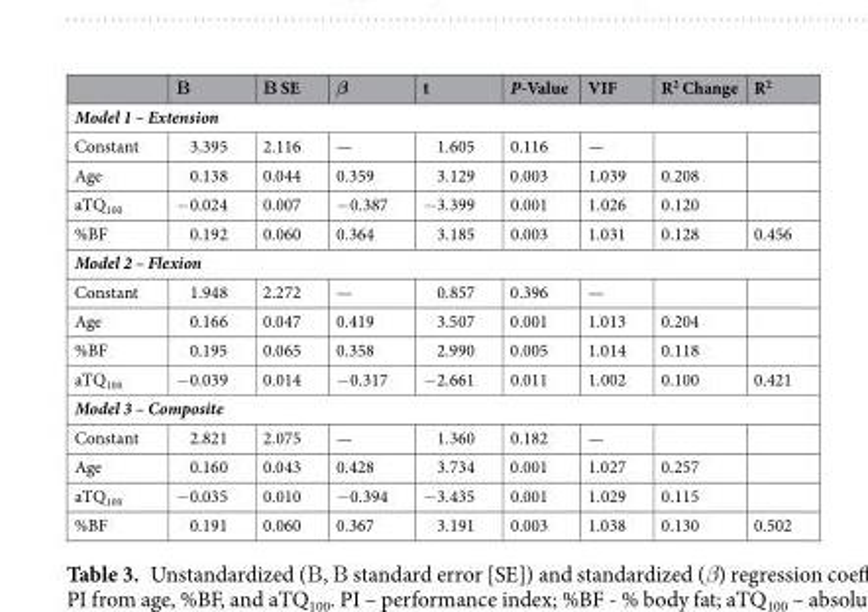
<table><thead><tr><td></td><td>Β</td><td>Β SE</td><td>β</td><td>t</td><td>P-Value</td><td>VIF</td><td>R<sup>2</sup> Change</td><td>R<sup>2</sup></td></tr></thead><tbody><tr><td colspan="9">Model 1 – Extension</td></tr><tr><td>Constant</td><td>3.395</td><td>2.116</td><td>—</td><td>1.605</td><td>0.116</td><td>—</td><td></td><td></td></tr><tr><td>Age</td><td>0.138</td><td>0.044</td><td>0.359</td><td>3.129</td><td>0.003</td><td>1.039</td><td>0.208</td><td></td></tr><tr><td>aTQ<sub>100</sub></td><td>−0.024</td><td>0.007</td><td>−0.387</td><td>−3.399</td><td>0.001</td><td>1.026</td><td>0.120</td><td></td></tr><tr><td>%BF</td><td>0.192</td><td>0.060</td><td>0.364</td><td>3.185</td><td>0.003</td><td>1.031</td><td>0.128</td><td>0.456</td></tr><tr><td colspan="9">Model 2 – Flexion</td></tr><tr><td>Constant</td><td>1.948</td><td>2.272</td><td>—</td><td>0.857</td><td>0.396</td><td>—</td><td></td><td></td></tr><tr><td>Age</td><td>0.166</td><td>0.047</td><td>0.419</td><td>3.507</td><td>0.001</td><td>1.013</td><td>0.204</td><td></td></tr><tr><td>%BF</td><td>0.195</td><td>0.065</td><td>0.358</td><td>2.990</td><td>0.005</td><td>1.014</td><td>0.118</td><td></td></tr><tr><td>aTQ<sub>100</sub></td><td>−0.039</td><td>0.014</td><td>−0.317</td><td>−2.661</td><td>0.011</td><td>1.002</td><td>0.100</td><td>0.421</td></tr><tr><td colspan="9">Model 3 – Composite</td></tr><tr><td>Constant</td><td>2.821</td><td>2.075</td><td>—</td><td>1.360</td><td>0.182</td><td>—</td><td></td><td></td></tr><tr><td>Age</td><td>0.160</td><td>0.043</td><td>0.428</td><td>3.734</td><td>0.001</td><td>1.027</td><td>0.257</td><td></td></tr><tr><td>aTQ<sub>100</sub></td><td>−0.035</td><td>0.010</td><td>−0.394</td><td>−3.435</td><td>0.001</td><td>1.029</td><td>0.115</td><td></td></tr><tr><td>%BF</td><td>0.191</td><td>0.060</td><td>0.367</td><td>3.191</td><td>0.003</td><td>1.038</td><td>0.130</td><td>0.502</td></tr></tbody></table>